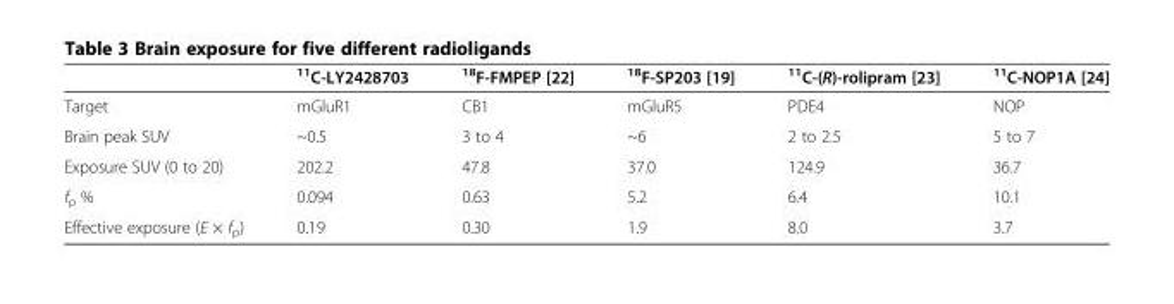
<table><thead><tr><td></td><td><sup>11</sup>C-LY2428703</td><td><sup>18</sup>F-FMPEP [22]</td><td><sup>18</sup>F-SP203 [19]</td><td><sup>11</sup>C-(R)-rolipram [23]</td><td><sup>11</sup>C-NOP1A [24]</td></tr></thead><tbody><tr><td>Target</td><td>mGluR1</td><td>CB1</td><td>mGluR5</td><td>PDE4</td><td>NOP</td></tr><tr><td>Brain peak SUV</td><td>~0.5</td><td>3 to 4</td><td>~6</td><td>2 to 2.5</td><td>5 to 7</td></tr><tr><td>Exposure SUV (0 to 20)</td><td>202.2</td><td>47.8</td><td>37.0</td><td>124.9</td><td>36.7</td></tr><tr><td>f<sub>p</sub> %</td><td>0.094</td><td>0.63</td><td>5.2</td><td>6.4</td><td>10.1</td></tr><tr><td>Effective exposure (E × f<sub>p</sub>)</td><td>0.19</td><td>0.30</td><td>1.9</td><td>8.0</td><td>3.7</td></tr></tbody></table>